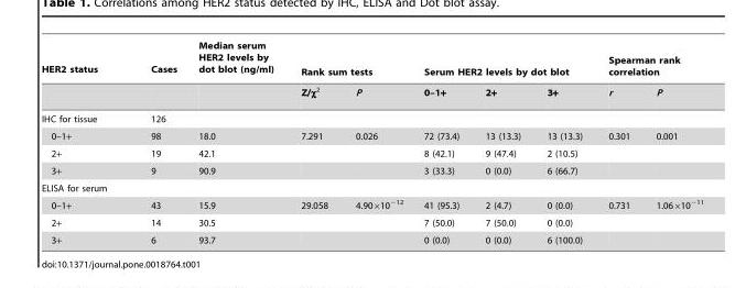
<table><thead><tr><td rowspan="2">HER2 status</td><td rowspan="2">Cases</td><td rowspan="2">Median serum HER2 levels by dot blot (ng/ml)</td><td colspan="2">Rank sum tests</td><td colspan="3">Serum HER2 levels by dot blot</td><td colspan="2">Spearman rank correlation</td></tr><tr><td>Z/χ<sup>2</sup></td><td>P</td><td>0–1+</td><td>2+</td><td>3+</td><td>r</td><td>P</td></tr></thead><tbody><tr><td>IHC for tissue</td><td>126</td><td></td><td></td><td></td><td></td><td></td><td></td><td></td><td></td></tr><tr><td>0–1+</td><td>98</td><td>18.0</td><td>7.291</td><td>0.026</td><td>72 (73.4)</td><td>13 (13.3)</td><td>13 (13.3)</td><td>0.301</td><td>0.001</td></tr><tr><td>2+</td><td>19</td><td>42.1</td><td></td><td></td><td>8 (42.1)</td><td>9 (47.4)</td><td>2 (10.5)</td><td></td><td></td></tr><tr><td>3+</td><td>9</td><td>90.9</td><td></td><td></td><td>3 (33.3)</td><td>0 (0.0)</td><td>6 (66.7)</td><td></td><td></td></tr><tr><td colspan="10">ELISA for serum</td></tr><tr><td>0–1+</td><td>43</td><td>15.9</td><td>29.058</td><td>4.90×10<sup>−12</sup></td><td>41 (95.3)</td><td>2 (4.7)</td><td>0 (0.0)</td><td>0.731</td><td>1.06×10<sup>−11</sup></td></tr><tr><td>2+</td><td>14</td><td>30.5</td><td></td><td></td><td>7 (50.0)</td><td>7 (50.0)</td><td>0 (0.0)</td><td></td><td></td></tr><tr><td>3+</td><td>6</td><td>93.7</td><td></td><td></td><td>0 (0.0)</td><td>0 (0.0)</td><td>6 (100.0)</td><td></td><td></td></tr></tbody></table>